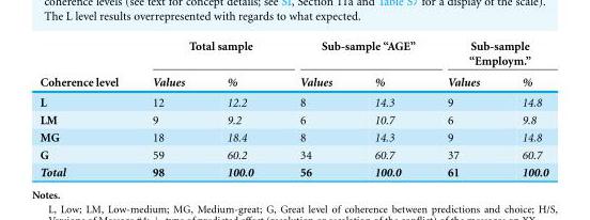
<table><thead><tr><td rowspan="2">Coherence level</td><td colspan="2">Total sample</td><td colspan="2">Sub-sample “AGE”</td><td colspan="2">Sub-sample “Employm.”</td></tr><tr><td>Values</td><td>%</td><td>Values</td><td>%</td><td>Values</td><td>%</td></tr></thead><tbody><tr><td>L</td><td>12</td><td>12.2</td><td>8</td><td>14.3</td><td>9</td><td>14.8</td></tr><tr><td>LM</td><td>9</td><td>9.2</td><td>6</td><td>10.7</td><td>6</td><td>9.8</td></tr><tr><td>MG</td><td>18</td><td>18.4</td><td>8</td><td>14.3</td><td>9</td><td>14.8</td></tr><tr><td>G</td><td>59</td><td>60.2</td><td>34</td><td>60.7</td><td>37</td><td>60.7</td></tr><tr><td>Total</td><td>98</td><td>100.0</td><td>56</td><td>100.0</td><td>61</td><td>100.0</td></tr></tbody></table>